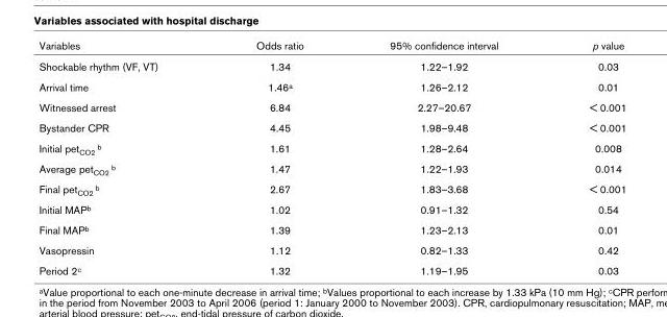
<table><thead><tr><td>Variables</td><td>Odds ratio</td><td>95% confidence interval</td><td>p value</td></tr></thead><tbody><tr><td>Shockable rhythm (VF, VT)</td><td>1.34</td><td>1.22–1.92</td><td>0.03</td></tr><tr><td>Arrival time</td><td>1.46<sup>a</sup></td><td>1.26–2.12</td><td>0.01</td></tr><tr><td>Witnessed arrest</td><td>6.84</td><td>2.27–20.67</td><td>&lt; 0.001</td></tr><tr><td>Bystander CPR</td><td>4.45</td><td>1.98–9.48</td><td>&lt; 0.001</td></tr><tr><td>Initial pet<sub>CO2</sub> <sup>b</sup></td><td>1.61</td><td>1.28–2.64</td><td>0.008</td></tr><tr><td>Average pet<sub>CO2</sub> <sup>b</sup></td><td>1.47</td><td>1.22–1.93</td><td>0.014</td></tr><tr><td>Final pet<sub>CO2</sub> <sup>b</sup></td><td>2.67</td><td>1.83–3.68</td><td>&lt; 0.001</td></tr><tr><td>Initial MAP<sup>b</sup></td><td>1.02</td><td>0.91–1.32</td><td>0.54</td></tr><tr><td>Final MAP<sup>b</sup></td><td>1.39</td><td>1.23–2.13</td><td>0.01</td></tr><tr><td>Vasopressin</td><td>1.12</td><td>0.82–1.33</td><td>0.42</td></tr><tr><td>Period 2<sup>c</sup></td><td>1.32</td><td>1.19–1.95</td><td>0.03</td></tr></tbody></table>